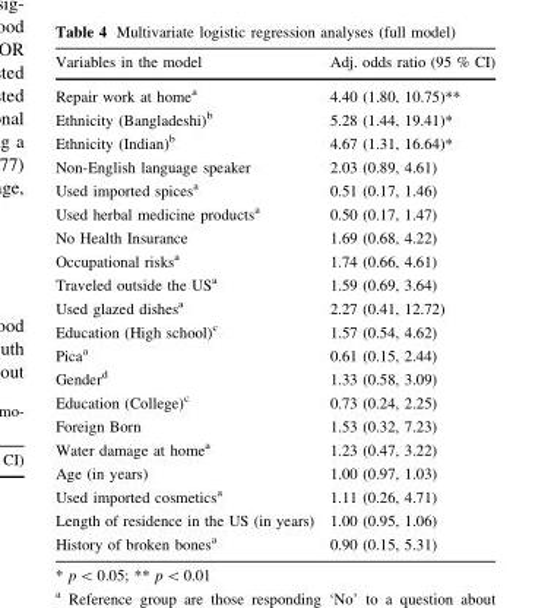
<table><thead><tr><td>Variables in the model</td><td>Adj. odds ratio (95 % CI)</td></tr></thead><tbody><tr><td>Repair work at home<sup>a</sup></td><td>4.40 (1.80, 10.75)**</td></tr><tr><td>Ethnicity (Bangladeshi)<sup>b</sup></td><td>5.28 (1.44, 19.41)*</td></tr><tr><td>Ethnicity (Indian)<sup>b</sup></td><td>4.67 (1.31, 16.64)*</td></tr><tr><td>Non-English language speaker</td><td>2.03 (0.89, 4.61)</td></tr><tr><td>Used imported spices<sup>a</sup></td><td>0.51 (0.17, 1.46)</td></tr><tr><td>Used herbal medicine products<sup>a</sup></td><td>0.50 (0.17, 1.47)</td></tr><tr><td>No Health Insurance</td><td>1.69 (0.68, 4.22)</td></tr><tr><td>Occupational risks<sup>a</sup></td><td>1.74 (0.66, 4.61)</td></tr><tr><td>Traveled outside the US<sup>a</sup></td><td>1.59 (0.69, 3.64)</td></tr><tr><td>Used glazed dishes<sup>a</sup></td><td>2.27 (0.41, 12.72)</td></tr><tr><td>Education (High school)<sup>c</sup></td><td>1.57 (0.54, 4.62)</td></tr><tr><td>Pica<sup>a</sup></td><td>0.61 (0.15, 2.44)</td></tr><tr><td>Gender<sup>d</sup></td><td>1.33 (0.58, 3.09)</td></tr><tr><td>Education (College)<sup>c</sup></td><td>0.73 (0.24, 2.25)</td></tr><tr><td>Foreign Born</td><td>1.53 (0.32, 7.23)</td></tr><tr><td>Water damage at home<sup>a</sup></td><td>1.23 (0.47, 3.22)</td></tr><tr><td>Age (in years)</td><td>1.00 (0.97, 1.03)</td></tr><tr><td>Used imported cosmetics<sup>a</sup></td><td>1.11 (0.26, 4.71)</td></tr><tr><td>Length of residence in the US (in years)</td><td>1.00 (0.95, 1.06)</td></tr><tr><td>History of broken bones<sup>a</sup></td><td>0.90 (0.15, 5.31)</td></tr></tbody></table>